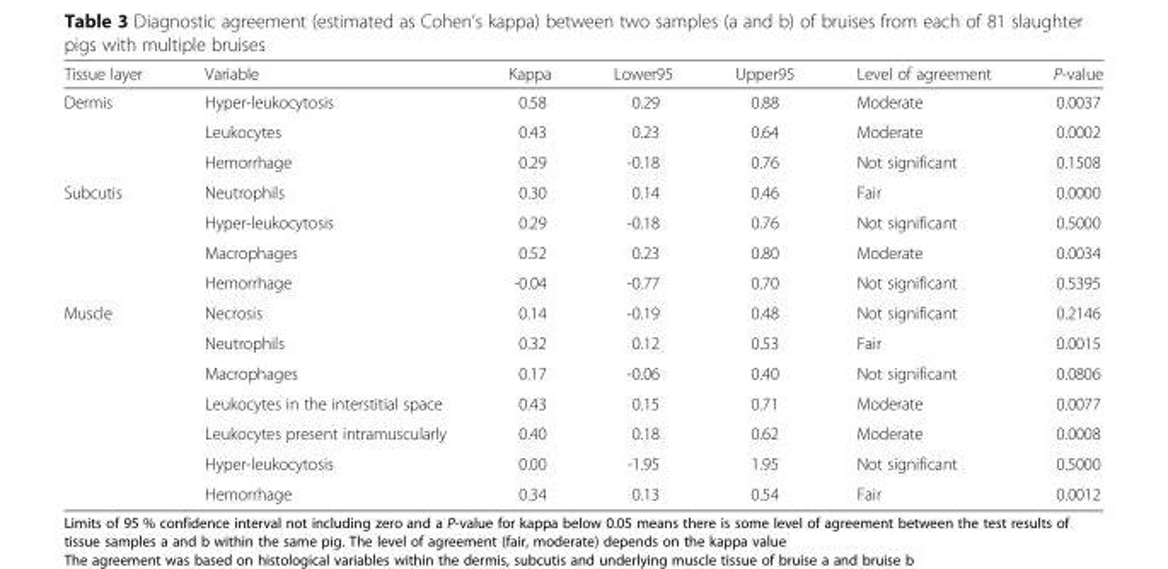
<table><thead><tr><td>Tissue layer</td><td>Variable</td><td>Kappa</td><td>Lower95</td><td>Upper95</td><td>Level of agreement</td><td>P-value</td></tr></thead><tbody><tr><td rowspan="3">Dermis</td><td>Hyper-leukocytosis</td><td>0.58</td><td>0.29</td><td>0.88</td><td>Moderate</td><td>0.0037</td></tr><tr><td>Leukocytes</td><td>0.43</td><td>0.23</td><td>0.64</td><td>Moderate</td><td>0.0002</td></tr><tr><td>Hemorrhage</td><td>0.29</td><td>-0.18</td><td>0.76</td><td>Not significant</td><td>0.1508</td></tr><tr><td rowspan="4">Subcutis</td><td>Neutrophils</td><td>0.30</td><td>0.14</td><td>0.46</td><td>Fair</td><td>0.0000</td></tr><tr><td>Hyper-leukocytosis</td><td>0.29</td><td>-0.18</td><td>0.76</td><td>Not significant</td><td>0.5000</td></tr><tr><td>Macrophages</td><td>0.52</td><td>0.23</td><td>0.80</td><td>Moderate</td><td>0.0034</td></tr><tr><td>Hemorrhage</td><td>-0.04</td><td>-0.77</td><td>0.70</td><td>Not significant</td><td>0.5395</td></tr><tr><td rowspan="7">Muscle</td><td>Necrosis</td><td>0.14</td><td>-0.19</td><td>0.48</td><td>Not significant</td><td>0.2146</td></tr><tr><td>Neutrophils</td><td>0.32</td><td>0.12</td><td>0.53</td><td>Fair</td><td>0.0015</td></tr><tr><td>Macrophages</td><td>0.17</td><td>-0.06</td><td>0.40</td><td>Not significant</td><td>0.0806</td></tr><tr><td>Leukocytes in the interstitial space</td><td>0.43</td><td>0.15</td><td>0.71</td><td>Moderate</td><td>0.0077</td></tr><tr><td>Leukocytes present intramuscularly</td><td>0.40</td><td>0.18</td><td>0.62</td><td>Moderate</td><td>0.0008</td></tr><tr><td>Hyper-leukocytosis</td><td>0.00</td><td>-1.95</td><td>1.95</td><td>Not significant</td><td>0.5000</td></tr><tr><td>Hemorrhage</td><td>0.34</td><td>0.13</td><td>0.54</td><td>Fair</td><td>0.0012</td></tr></tbody></table>